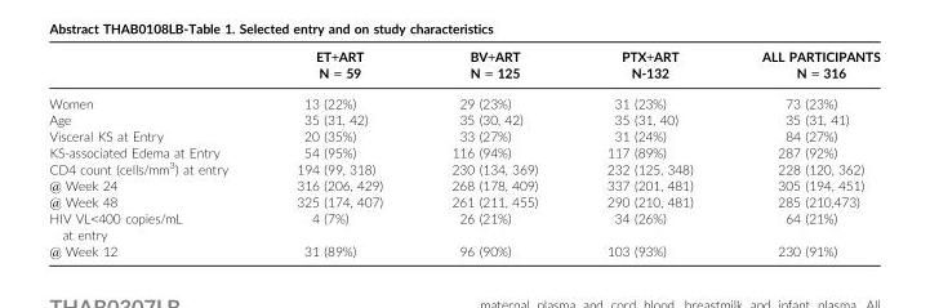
<table><thead><tr><td></td><td>ET+ART N = 59</td><td>BV+ART N = 125</td><td>PTX+ART N-132</td><td>ALL PARTICIPANTS N = 316</td></tr></thead><tbody><tr><td>Women</td><td>13 (22%)</td><td>29 (23%)</td><td>31 (23%)</td><td>73 (23%)</td></tr><tr><td>Age</td><td>35 (31, 42)</td><td>35 (30, 42)</td><td>35 (31, 40)</td><td>35 (31, 41)</td></tr><tr><td>Visceral KS at Entry</td><td>20 (35%)</td><td>33 (27%)</td><td>31 (24%)</td><td>84 (27%)</td></tr><tr><td>KS-associated Edema at Entry</td><td>54 (95%)</td><td>116 (94%)</td><td>117 (89%)</td><td>287 (92%)</td></tr><tr><td>CD4 count (cells/mm<sup>3</sup>) at entry</td><td>194 (99, 318)</td><td>230 (134, 369)</td><td>232 (125, 348)</td><td>228 (120, 362)</td></tr><tr><td>@ Week 24</td><td>316 (206, 429)</td><td>268 (178, 409)</td><td>337 (201, 481)</td><td>305 (194, 451)</td></tr><tr><td>@ Week 48</td><td>325 (174, 407)</td><td>261 (211, 455)</td><td>290 (210, 481)</td><td>285 (210,473)</td></tr><tr><td>HIV VL&lt;400 copies/mL at entry</td><td>4 (7%)</td><td>26 (21%)</td><td>34 (26%)</td><td>64 (21%)</td></tr><tr><td>@ Week 12</td><td>31 (89%)</td><td>96 (90%)</td><td>103 (93%)</td><td>230 (91%)</td></tr></tbody></table>